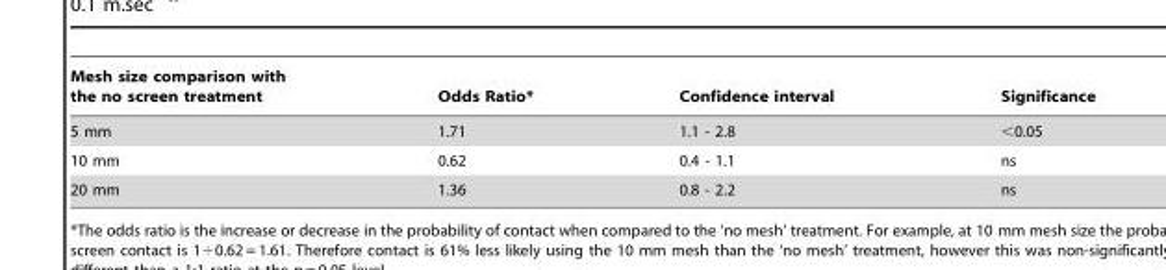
<table><thead><tr><td>Mesh size comparison with the no screen treatment</td><td>Odds Ratio*</td><td>Confidence interval</td><td>Significance</td></tr></thead><tbody><tr><td>5 mm</td><td>1.71</td><td>1.1 - 2.8</td><td>&lt;0.05</td></tr><tr><td>10 mm</td><td>0.62</td><td>0.4 - 1.1</td><td>ns</td></tr><tr><td>20 mm</td><td>1.36</td><td>0.8 - 2.2</td><td>ns</td></tr></tbody></table>